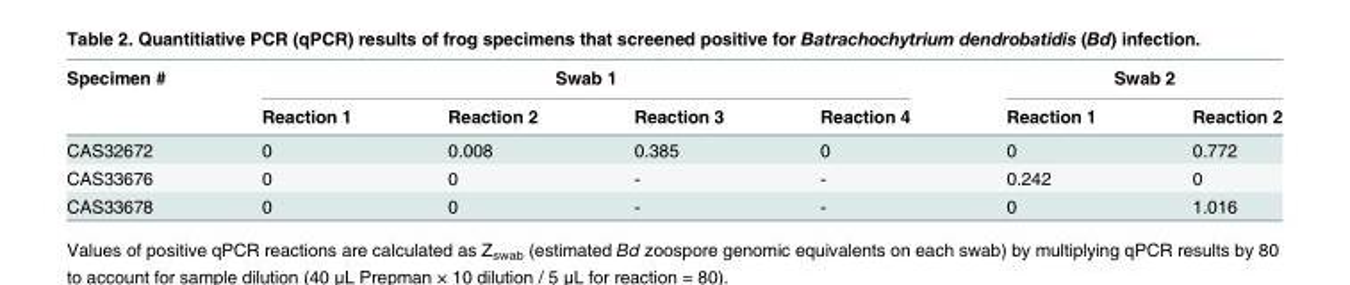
<table><thead><tr><td rowspan="2">Specimen #</td><td colspan="4">Swab 1</td><td colspan="2">Swab 2</td></tr><tr><td>Reaction 1</td><td>Reaction 2</td><td>Reaction 3</td><td>Reaction 4</td><td>Reaction 1</td><td>Reaction 2</td></tr></thead><tbody><tr><td>CAS32672</td><td>0</td><td>0.008</td><td>0.385</td><td>0</td><td>0</td><td>0.772</td></tr><tr><td>CAS33676</td><td>0</td><td>0</td><td>-</td><td>-</td><td>0.242</td><td>0</td></tr><tr><td>CAS33678</td><td>0</td><td>0</td><td>-</td><td>-</td><td>0</td><td>1.016</td></tr></tbody></table>